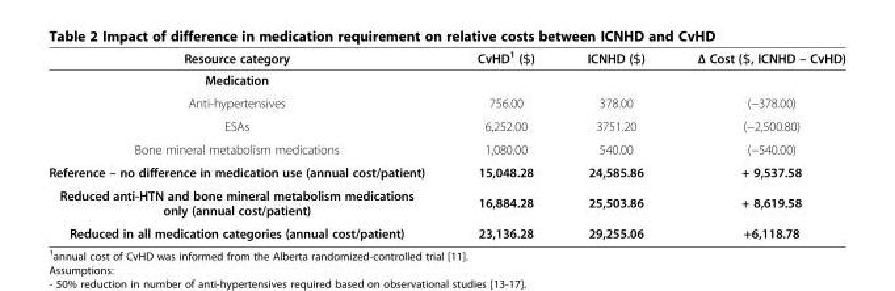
<table><thead><tr><td>Resource category</td><td>CvHD<sup>1</sup> ($)</td><td>ICNHD ($)</td><td>Δ Cost ($, ICNHD – CvHD)</td></tr></thead><tbody><tr><td colspan="4">Medication</td></tr><tr><td>Anti-hypertensives</td><td>756.00</td><td>378.00</td><td>(−378.00)</td></tr><tr><td>ESAs</td><td>6,252.00</td><td>3751.20</td><td>(−2,500.80)</td></tr><tr><td>Bone mineral metabolism medications</td><td>1,080.00</td><td>540.00</td><td>(−540.00)</td></tr><tr><td>Reference – no difference in medication use (annual cost/patient)</td><td>15,048.28</td><td>24,585.86</td><td>+ 9,537.58</td></tr><tr><td>Reduced anti-HTN and bone mineral metabolism medications only (annual cost/patient)</td><td>16,884.28</td><td>25,503.86</td><td>+ 8,619.58</td></tr><tr><td>Reduced in all medication categories (annual cost/patient)</td><td>23,136.28</td><td>29,255.06</td><td>+6,118.78</td></tr></tbody></table>